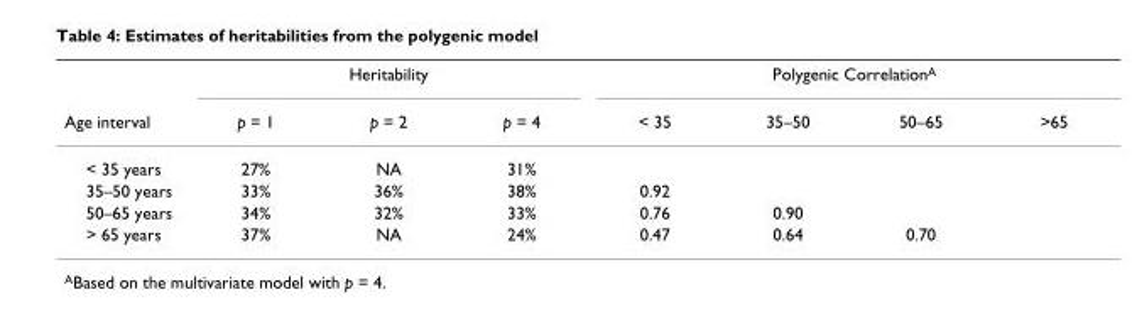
<table><thead><tr><td rowspan="2">Age interval</td><td colspan="3">Heritability</td><td colspan="4">Polygenic CorrelationA</td></tr><tr><td>p = 1</td><td>p = 2</td><td>p = 4</td><td>&lt; 35</td><td>35–50</td><td>50–65</td><td>&gt;65</td></tr></thead><tbody><tr><td>&lt; 35 years</td><td>27%</td><td>NA</td><td>31%</td><td></td><td></td><td></td><td></td></tr><tr><td>35–50 years</td><td>33%</td><td>36%</td><td>38%</td><td>0.92</td><td></td><td></td><td></td></tr><tr><td>50–65 years</td><td>34%</td><td>32%</td><td>33%</td><td>0.76</td><td>0.90</td><td></td><td></td></tr><tr><td>&gt; 65 years</td><td>37%</td><td>NA</td><td>24%</td><td>0.47</td><td>0.64</td><td>0.70</td><td></td></tr></tbody></table>